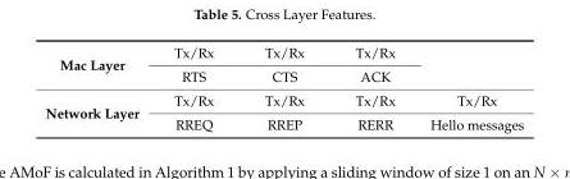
<table><tbody><tr><td rowspan="2">Mac Layer</td><td>Tx/Rx</td><td>Tx/Rx</td><td>Tx/Rx</td><td rowspan="2"></td></tr><tr><td>RTS</td><td>CTS</td><td>ACK</td></tr><tr><td rowspan="2">Network Layer</td><td>Tx/Rx</td><td>Tx/Rx</td><td>Tx/Rx</td><td>Tx/Rx</td></tr><tr><td>RREQ</td><td>RREP</td><td>RERR</td><td>Hello messages</td></tr></tbody></table>